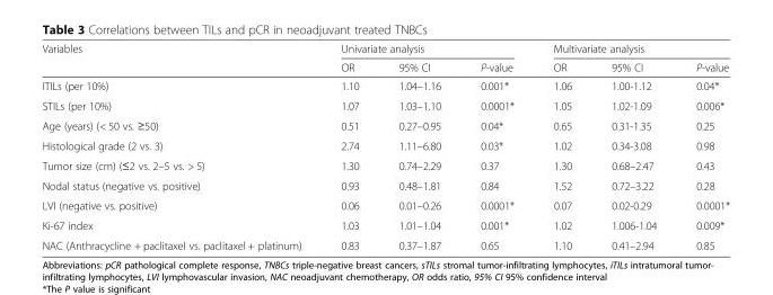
<table><thead><tr><td rowspan="2">Variables</td><td colspan="3">Univariate analysis</td><td colspan="3">Multivariate analysis</td></tr><tr><td>OR</td><td>95% CI</td><td>P-value</td><td>OR</td><td>95% CI</td><td>P-value</td></tr></thead><tbody><tr><td>ITILs (per 10%)</td><td>1.10</td><td>1.04–1.16</td><td>0.001*</td><td>1.06</td><td>1.00-1.12</td><td>0.04*</td></tr><tr><td>STILs (per 10%)</td><td>1.07</td><td>1.03–1.10</td><td>0.0001*</td><td>1.05</td><td>1.02-1.09</td><td>0.006*</td></tr><tr><td>Age (years) (&lt; 50 vs. ≥50)</td><td>0.51</td><td>0.27–0.95</td><td>0.04*</td><td>0.65</td><td>0.31-1.35</td><td>0.25</td></tr><tr><td>Histological grade (2 vs. 3)</td><td>2.74</td><td>1.11–6.80</td><td>0.03*</td><td>1.02</td><td>0.34-3.08</td><td>0.98</td></tr><tr><td>Tumor size (cm) (≤2 vs. 2–5 vs. &gt; 5)</td><td>1.30</td><td>0.74–2.29</td><td>0.37</td><td>1.30</td><td>0.68–2.47</td><td>0.43</td></tr><tr><td>Nodal status (negative vs. positive)</td><td>0.93</td><td>0.48–1.81</td><td>0.84</td><td>1.52</td><td>0.72–3.22</td><td>0.28</td></tr><tr><td>LVI (negative vs. positive)</td><td>0.06</td><td>0.01–0.26</td><td>0.0001*</td><td>0.07</td><td>0.02-0.29</td><td>0.0001*</td></tr><tr><td>Ki-67 index</td><td>1.03</td><td>1.01–1.04</td><td>0.001*</td><td>1.02</td><td>1.006-1.04</td><td>0.009*</td></tr><tr><td>NAC (Anthracycline + paclitaxel vs. paclitaxel + platinum)</td><td>0.83</td><td>0.37–1.87</td><td>0.65</td><td>1.10</td><td>0.41–2.94</td><td>0.85</td></tr></tbody></table>